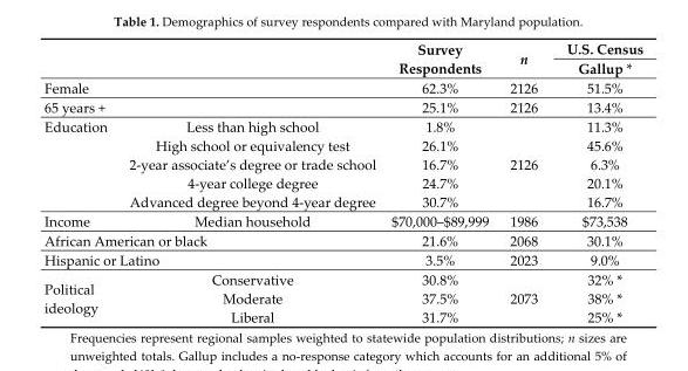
<table><thead><tr><td rowspan="2"></td><td rowspan="2"></td><td rowspan="2">Survey Respondents</td><td rowspan="2">n</td><td rowspan="2">U.S. Census Gallup *</td></tr><tr></tr></thead><tbody><tr><td>Female</td><td></td><td>62.3%</td><td>2126</td><td>51.5%</td></tr><tr><td colspan="2">65 years +</td><td>25.1%</td><td>2126</td><td>13.4%</td></tr><tr><td rowspan="5">Education</td><td>Less than high school</td><td>1.8%</td><td rowspan="5">2126</td><td>11.3%</td></tr><tr><td>High school or equivalency test</td><td>26.1%</td><td>45.6%</td></tr><tr><td>2-year associate’s degree or trade school</td><td>16.7%</td><td>6.3%</td></tr><tr><td>4-year college degree</td><td>24.7%</td><td>20.1%</td></tr><tr><td>Advanced degree beyond 4-year degree</td><td>30.7%</td><td>16.7%</td></tr><tr><td>Income</td><td>Median household</td><td>$70,000–$89,999</td><td>1986</td><td>$73,538</td></tr><tr><td colspan="2">African American or black</td><td>21.6%</td><td>2068</td><td>30.1%</td></tr><tr><td colspan="2">Hispanic or Latino</td><td>3.5%</td><td>2023</td><td>9.0%</td></tr><tr><td rowspan="3">Political ideology</td><td>Conservative</td><td>30.8%</td><td rowspan="3">2073</td><td>32% *</td></tr><tr><td>Moderate</td><td>37.5%</td><td>38% *</td></tr><tr><td>Liberal</td><td>31.7%</td><td>25% *</td></tr></tbody></table>